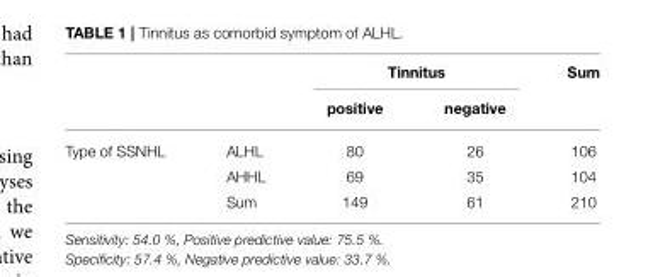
<table><thead><tr><td rowspan="2"></td><td rowspan="2"></td><td colspan="2">Tinnitus</td><td rowspan="2">Sum</td></tr><tr><td>positive</td><td>negative</td></tr></thead><tbody><tr><td rowspan="3">Type of SSNHL</td><td>ALHL</td><td>80</td><td>26</td><td>106</td></tr><tr><td>AHHL</td><td>69</td><td>35</td><td>104</td></tr><tr><td>Sum</td><td>149</td><td>61</td><td>210</td></tr></tbody></table>